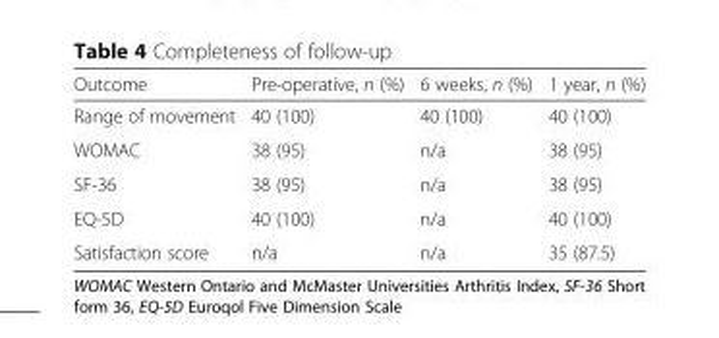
<table><thead><tr><td>Outcome</td><td>Pre-operative, n (%)</td><td>6 weeks, n (%)</td><td>1 year, n (%)</td></tr></thead><tbody><tr><td>Range of movement</td><td>40 (100)</td><td>40 (100)</td><td>40 (100)</td></tr><tr><td>WOMAC</td><td>38 (95)</td><td>n/a</td><td>38 (95)</td></tr><tr><td>SF-36</td><td>38 (95)</td><td>n/a</td><td>38 (95)</td></tr><tr><td>EQ-5D</td><td>40 (100)</td><td>n/a</td><td>40 (100)</td></tr><tr><td>Satisfaction score</td><td>n/a</td><td>n/a</td><td>35 (87.5)</td></tr></tbody></table>